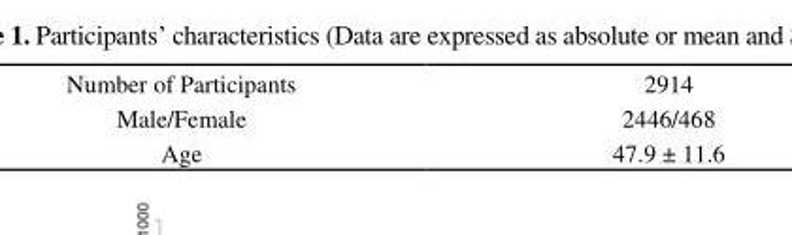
<table><tbody><tr><td>Number of Participants</td><td>2914</td></tr><tr><td>Male/Female</td><td>2446/468</td></tr><tr><td>Age</td><td>47.9 ± 11.6</td></tr></tbody></table>